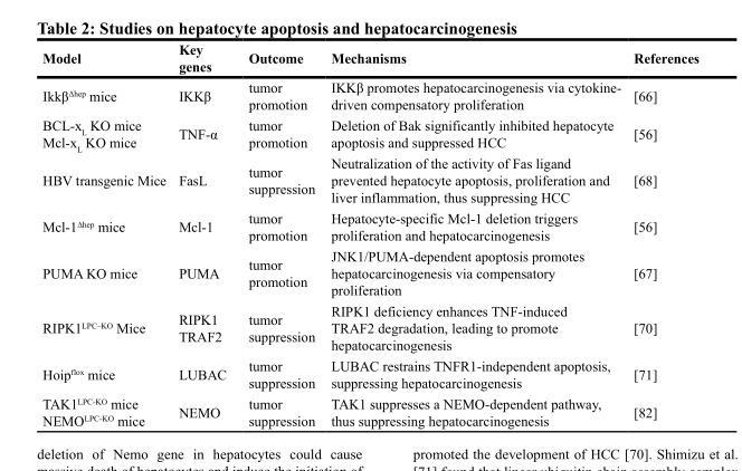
<table><thead><tr><td>Model</td><td>Key genes</td><td>Outcome</td><td>Mechanisms</td><td>References</td></tr></thead><tbody><tr><td>Ikkβ<sup>Δhep</sup> mice</td><td>IKKβ</td><td>tumor promotion</td><td>IKKβ promotes hepatocarcinogenesis via cytokine- driven compensatory proliferation</td><td>[66]</td></tr><tr><td>BCL-x<sub>L</sub> KO mice Mcl-x<sub>L</sub> KO mice</td><td>TNF-α</td><td>tumor promotion</td><td>Deletion of Bak significantly inhibited hepatocyte apoptosis and suppressed HCC</td><td>[56]</td></tr><tr><td>HBV transgenic Mice</td><td>FasL</td><td>tumor suppression</td><td>Neutralization of the activity of Fas ligand prevented hepatocyte apoptosis, proliferation and liver inflammation, thus suppressing HCC</td><td>[68]</td></tr><tr><td>Mcl-1<sup>Δhep</sup> mice</td><td>Mcl-1</td><td>tumor promotion</td><td>Hepatocyte-specific Mcl-1 deletion triggers proliferation and hepatocarcinogenesis</td><td>[56]</td></tr><tr><td>PUMA KO mice</td><td>PUMA</td><td>tumor promotion</td><td>JNK1/PUMA-dependent apoptosis promotes hepatocarcinogenesis via compensatory proliferation</td><td>[67]</td></tr><tr><td>RIPK1<sup>LPC–KO</sup> Mice</td><td>RIPK1 TRAF2</td><td>tumor suppression</td><td>RIPK1 deficiency enhances TNF-induced TRAF2 degradation, leading to promote hepatocarcinogenesis</td><td>[70]</td></tr><tr><td>Hoip<sup>flox</sup> mice</td><td>LUBAC</td><td>tumor suppression</td><td>LUBAC restrains TNFR1-independent apoptosis, suppressing hepatocarcinogenesis</td><td>[71]</td></tr><tr><td>TAK1<sup>LPC-KO</sup> mice NEMO<sup>LPC-KO</sup> mice</td><td>NEMO</td><td>tumor suppression</td><td>TAK1 suppresses a NEMO-dependent pathway, thus suppressing hepatocarcinogenesis</td><td>[82]</td></tr></tbody></table>